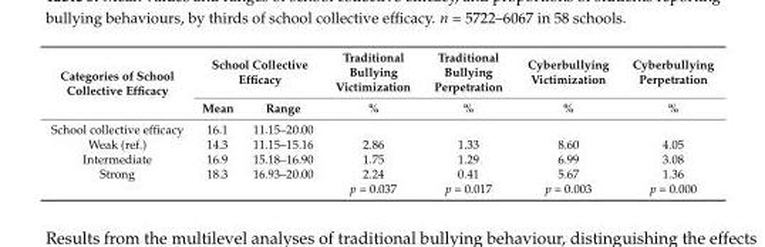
<table><thead><tr><td rowspan="2">Categories of School Collective Efficacy</td><td colspan="2">School Collective Efficacy</td><td rowspan="2">Traditional Bullying Victimization %</td><td rowspan="2">Traditional Bullying Perpetration %</td><td rowspan="2">Cyberbullying Victimization %</td><td rowspan="2">Cyberbullying Perpetration %</td></tr><tr><td>Mean</td><td>Range</td></tr></thead><tbody><tr><td>School collective efficacy</td><td>16.1</td><td>11.15–20.00</td><td></td><td></td><td></td><td></td></tr><tr><td>Weak (ref.)</td><td>14.3</td><td>11.15–15.16</td><td>2.86</td><td>1.33</td><td>8.60</td><td>4.05</td></tr><tr><td>Intermediate</td><td>16.9</td><td>15.18–16.90</td><td>1.75</td><td>1.29</td><td>6.99</td><td>3.08</td></tr><tr><td rowspan="2">Strong</td><td>18.3</td><td>16.93–20.00</td><td>2.24</td><td>0.41</td><td>5.67</td><td>1.36</td></tr><tr><td></td><td></td><td>p = 0.037</td><td>p = 0.017</td><td>p = 0.003</td><td>p = 0.000</td></tr></tbody></table>